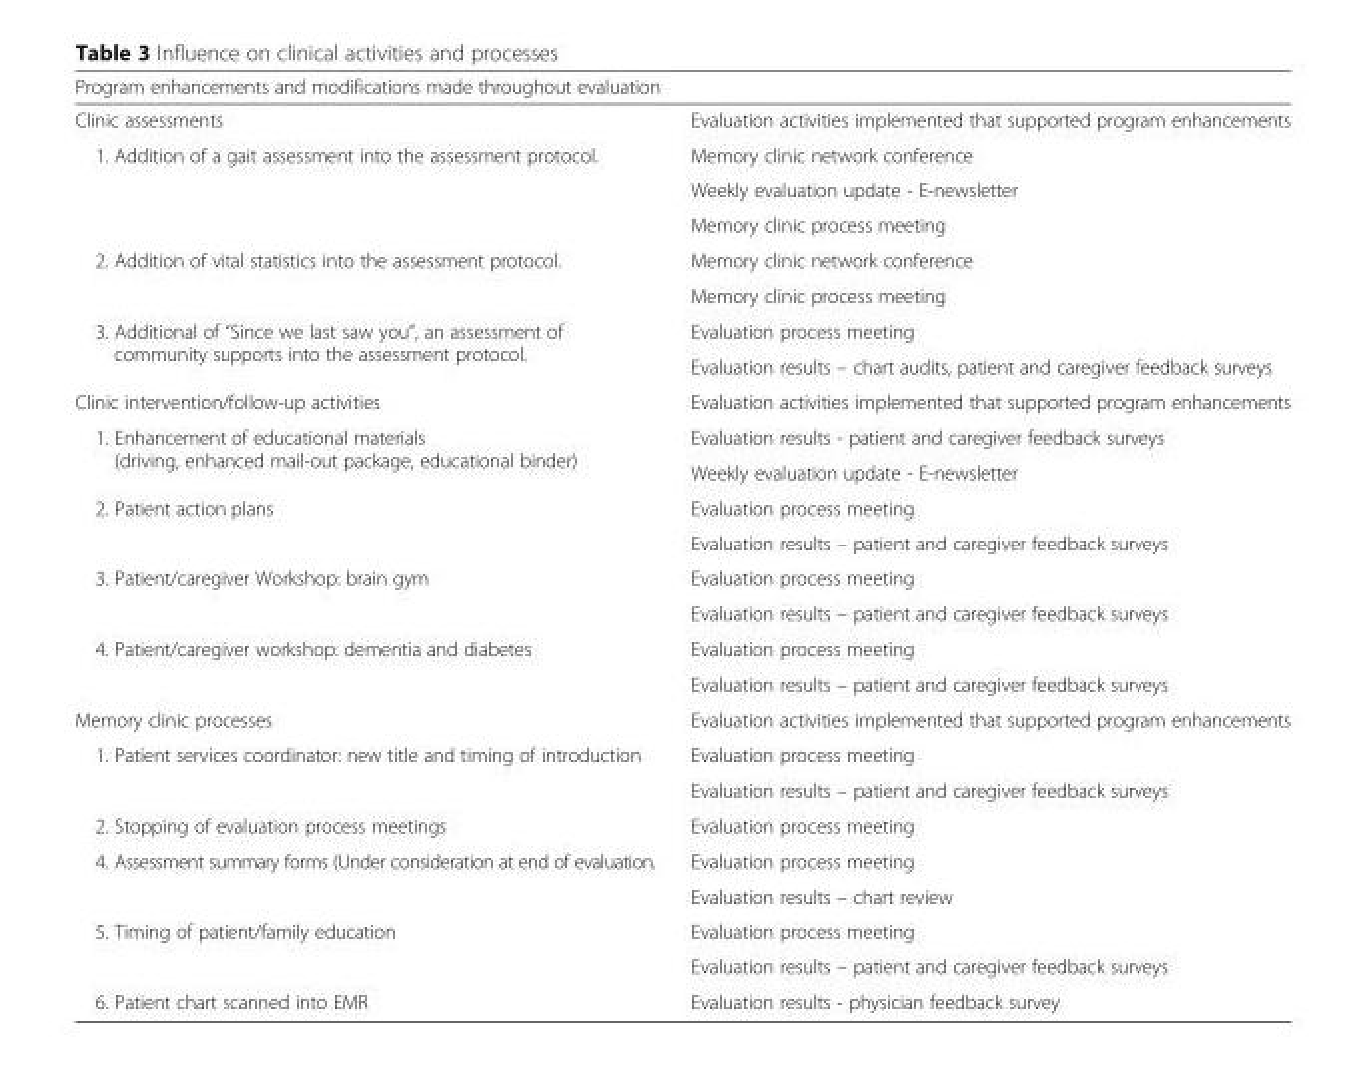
<table><thead><tr><td colspan="2">Program enhancements and modifications made throughout evaluation</td></tr><tr><td>Clinic assessments</td><td>Evaluation activities implemented that supported program enhancements</td></tr></thead><tbody><tr><td rowspan="3">1. Addition of a gait assessment into the assessment protocol.</td><td>Memory clinic network conference</td></tr><tr><td>Weekly evaluation update - E-newsletter</td></tr><tr><td>Memory clinic process meeting</td></tr><tr><td rowspan="2">2. Addition of vital statistics into the assessment protocol.</td><td>Memory clinic network conference</td></tr><tr><td>Memory clinic process meeting</td></tr><tr><td rowspan="2">3. Additional of “Since we last saw you”, an assessment of community supports into the assessment protocol.</td><td>Evaluation process meeting</td></tr><tr><td>Evaluation results – chart audits, patient and caregiver feedback surveys</td></tr><tr><td>Clinic intervention/follow-up activities</td><td>Evaluation activities implemented that supported program enhancements</td></tr><tr><td rowspan="2">1. Enhancement of educational materials (driving, enhanced mail-out package, educational binder)</td><td>Evaluation results - patient and caregiver feedback surveys</td></tr><tr><td>Weekly evaluation update - E-newsletter</td></tr><tr><td rowspan="2">2. Patient action plans</td><td>Evaluation process meeting</td></tr><tr><td>Evaluation results – patient and caregiver feedback surveys</td></tr><tr><td rowspan="2">3. Patient/caregiver Workshop: brain gym</td><td>Evaluation process meeting</td></tr><tr><td>Evaluation results – patient and caregiver feedback surveys</td></tr><tr><td rowspan="2">4. Patient/caregiver workshop: dementia and diabetes</td><td>Evaluation process meeting</td></tr><tr><td>Evaluation results – patient and caregiver feedback surveys</td></tr><tr><td>Memory clinic processes</td><td>Evaluation activities implemented that supported program enhancements</td></tr><tr><td rowspan="2">1. Patient services coordinator: new title and timing of introduction</td><td>Evaluation process meeting</td></tr><tr><td>Evaluation results – patient and caregiver feedback surveys</td></tr><tr><td>2. Stopping of evaluation process meetings</td><td>Evaluation process meeting</td></tr><tr><td rowspan="2">4. Assessment summary forms (Under consideration at end of evaluation.</td><td>Evaluation process meeting</td></tr><tr><td>Evaluation results – chart review</td></tr><tr><td rowspan="2">5. Timing of patient/family education</td><td>Evaluation process meeting</td></tr><tr><td>Evaluation results – patient and caregiver feedback surveys</td></tr><tr><td>6. Patient chart scanned into EMR</td><td>Evaluation results - physician feedback survey</td></tr></tbody></table>